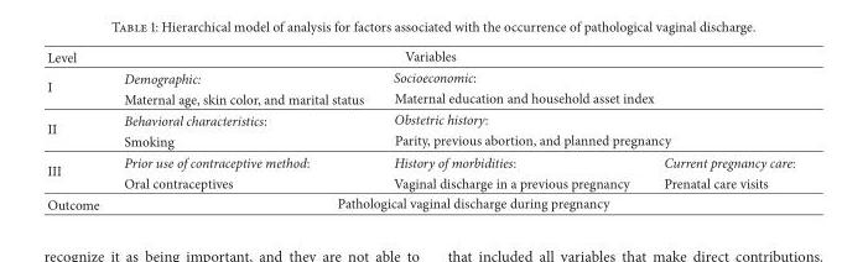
<table><thead><tr><td>Level</td><td colspan="3">Variables</td></tr></thead><tbody><tr><td rowspan="2">I</td><td>Demographic:</td><td colspan="2">Socioeconomic:</td></tr><tr><td>Maternal age, skin color, and marital status</td><td colspan="2">Maternal education and household asset index</td></tr><tr><td rowspan="2">II</td><td>Behavioral characteristics:</td><td colspan="2">Obstetric history:</td></tr><tr><td>Smoking</td><td colspan="2">Parity, previous abortion, and planned pregnancy</td></tr><tr><td rowspan="2">III</td><td>Prior use of contraceptive method:</td><td>History of morbidities:</td><td>Current pregnancy care:</td></tr><tr><td>Oral contraceptives</td><td>Vaginal discharge in a previous pregnancy</td><td>Prenatal care visits</td></tr><tr><td>Outcome</td><td colspan="3">Pathological vaginal discharge during pregnancy</td></tr></tbody></table>